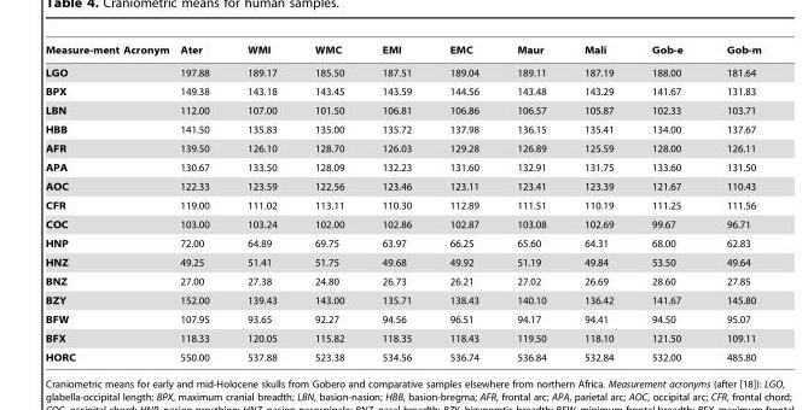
<table><thead><tr><td>Measure-ment Acronym</td><td>Ater</td><td>WMI</td><td>WMC</td><td>EMI</td><td>EMC</td><td>Maur</td><td>Mali</td><td>Gob-e</td><td>Gob-m</td></tr></thead><tbody><tr><td>LGO</td><td>197.88</td><td>189.17</td><td>185.50</td><td>187.51</td><td>189.04</td><td>189.11</td><td>187.19</td><td>188.00</td><td>181.64</td></tr><tr><td>BPX</td><td>149.38</td><td>143.18</td><td>143.45</td><td>143.59</td><td>144.56</td><td>143.48</td><td>143.29</td><td>141.67</td><td>131.83</td></tr><tr><td>LBN</td><td>112.00</td><td>107.00</td><td>101.50</td><td>106.81</td><td>106.86</td><td>106.57</td><td>105.87</td><td>102.33</td><td>103.71</td></tr><tr><td>HBB</td><td>141.50</td><td>135.83</td><td>135.00</td><td>135.72</td><td>137.98</td><td>136.15</td><td>135.41</td><td>134.00</td><td>137.67</td></tr><tr><td>AFR</td><td>139.50</td><td>126.10</td><td>128.70</td><td>126.03</td><td>129.28</td><td>126.89</td><td>125.59</td><td>128.00</td><td>126.11</td></tr><tr><td>APA</td><td>130.67</td><td>133.50</td><td>128.09</td><td>132.23</td><td>131.60</td><td>132.91</td><td>131.75</td><td>133.60</td><td>131.50</td></tr><tr><td>AOC</td><td>122.33</td><td>123.59</td><td>122.56</td><td>123.46</td><td>123.11</td><td>123.41</td><td>123.39</td><td>121.67</td><td>110.43</td></tr><tr><td>CFR</td><td>119.00</td><td>111.02</td><td>113.11</td><td>110.30</td><td>112.89</td><td>111.51</td><td>110.19</td><td>111.25</td><td>111.56</td></tr><tr><td>COC</td><td>103.00</td><td>103.24</td><td>102.00</td><td>102.86</td><td>102.87</td><td>103.08</td><td>102.69</td><td>99.67</td><td>96.71</td></tr><tr><td>HNP</td><td>72.00</td><td>64.89</td><td>69.75</td><td>63.97</td><td>66.25</td><td>65.60</td><td>64.31</td><td>68.00</td><td>62.83</td></tr><tr><td>HNZ</td><td>49.25</td><td>51.41</td><td>51.75</td><td>49.68</td><td>49.92</td><td>51.19</td><td>49.84</td><td>53.50</td><td>49.64</td></tr><tr><td>BNZ</td><td>27.00</td><td>27.38</td><td>24.80</td><td>26.73</td><td>26.21</td><td>27.02</td><td>26.69</td><td>28.60</td><td>27.85</td></tr><tr><td>BZY</td><td>152.00</td><td>139.43</td><td>143.00</td><td>135.71</td><td>138.43</td><td>140.10</td><td>136.42</td><td>141.67</td><td>145.80</td></tr><tr><td>BFW</td><td>107.95</td><td>93.65</td><td>92.27</td><td>94.56</td><td>96.51</td><td>94.17</td><td>94.41</td><td>94.50</td><td>95.07</td></tr><tr><td>BFX</td><td>118.33</td><td>120.05</td><td>115.82</td><td>118.35</td><td>118.43</td><td>119.50</td><td>118.10</td><td>121.50</td><td>109.11</td></tr><tr><td>HORC</td><td>550.00</td><td>537.88</td><td>523.38</td><td>534.56</td><td>536.74</td><td>536.84</td><td>532.84</td><td>532.00</td><td>485.80</td></tr></tbody></table>